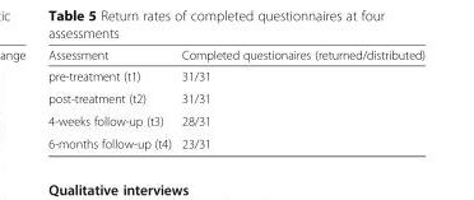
<table><thead><tr><td>Assessment</td><td>Completed questionaires (returned/distributed)</td></tr></thead><tbody><tr><td>pre-treatment (t1)</td><td>31/31</td></tr><tr><td>post-treatment (t2)</td><td>31/31</td></tr><tr><td>4-weeks follow-up (t3)</td><td>28/31</td></tr><tr><td>6-months follow-up (t4)</td><td>23/31</td></tr></tbody></table>